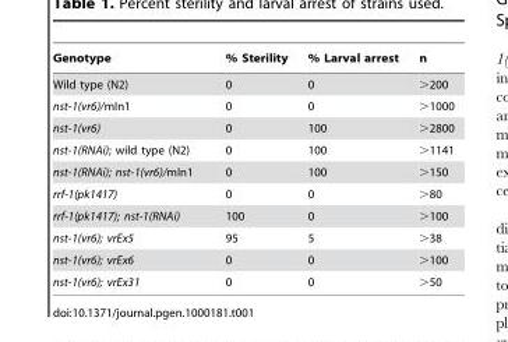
<table><thead><tr><td>Genotype</td><td>% Sterility</td><td>% Larval arrest</td><td>n</td></tr></thead><tbody><tr><td>Wild type (N2)</td><td>0</td><td>0</td><td>&gt;200</td></tr><tr><td>nst-1(vr6)/mIn1</td><td>0</td><td>0</td><td>&gt;1000</td></tr><tr><td>nst-1(vr6)</td><td>0</td><td>100</td><td>&gt;2800</td></tr><tr><td>nst-1(RNAi); wild type (N2)</td><td>0</td><td>100</td><td>&gt;1141</td></tr><tr><td>nst-1(RNAi); nst-1(vr6)/mIn1</td><td>0</td><td>100</td><td>&gt;150</td></tr><tr><td>rrf-1(pk1417)</td><td>0</td><td>0</td><td>&gt;80</td></tr><tr><td>rrf-1(pk1417); nst-1(RNAi)</td><td>100</td><td>0</td><td>&gt;100</td></tr><tr><td>nst-1(vr6); vrEx5</td><td>95</td><td>5</td><td>&gt;38</td></tr><tr><td>nst-1(vr6); vrEx6</td><td>0</td><td>0</td><td>&gt;100</td></tr><tr><td>nst-1(vr6); vrEx31</td><td>0</td><td>0</td><td>&gt;50</td></tr></tbody></table>